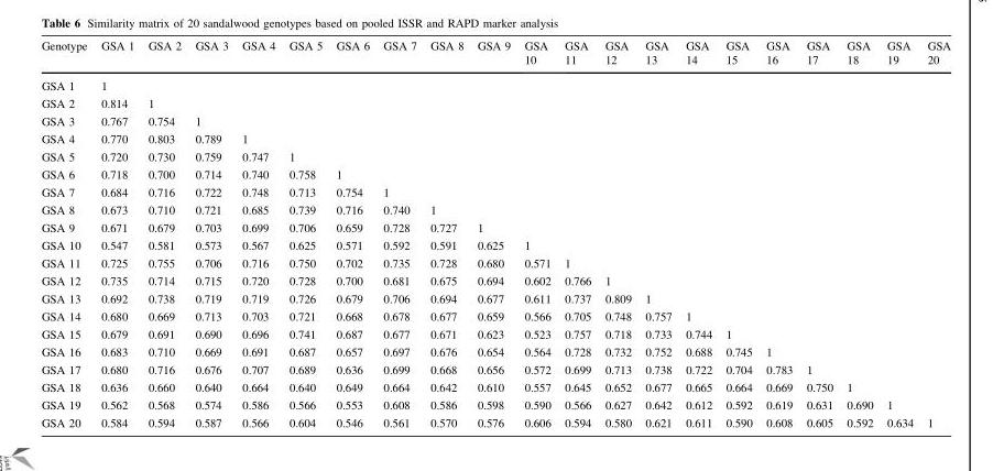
<table><thead><tr><td>Genotype</td><td>GSA 1</td><td>GSA 2</td><td>GSA 3</td><td>GSA 4</td><td>GSA 5</td><td>GSA 6</td><td>GSA 7</td><td>GSA 8</td><td>GSA 9</td><td>GSA 10</td><td>GSA 11</td><td>GSA 12</td><td>GSA 13</td><td>GSA 14</td><td>GSA 15</td><td>GSA 16</td><td>GSA 17</td><td>GSA 18</td><td>GSA 19</td><td>GSA 20</td></tr></thead><tbody><tr><td>GSA 1</td><td>1</td><td></td><td></td><td></td><td></td><td></td><td></td><td></td><td></td><td></td><td></td><td></td><td></td><td></td><td></td><td></td><td></td><td></td><td></td><td></td></tr><tr><td>GSA 2</td><td>0.814</td><td>1</td><td></td><td></td><td></td><td></td><td></td><td></td><td></td><td></td><td></td><td></td><td></td><td></td><td></td><td></td><td></td><td></td><td></td><td></td></tr><tr><td>GSA 3</td><td>0.767</td><td>0.754</td><td>1</td><td></td><td></td><td></td><td></td><td></td><td></td><td></td><td></td><td></td><td></td><td></td><td></td><td></td><td></td><td></td><td></td><td></td></tr><tr><td>GSA 4</td><td>0.770</td><td>0.803</td><td>0.789</td><td>1</td><td></td><td></td><td></td><td></td><td></td><td></td><td></td><td></td><td></td><td></td><td></td><td></td><td></td><td></td><td></td><td></td></tr><tr><td>GSA 5</td><td>0.720</td><td>0.730</td><td>0.759</td><td>0.747</td><td>1</td><td></td><td></td><td></td><td></td><td></td><td></td><td></td><td></td><td></td><td></td><td></td><td></td><td></td><td></td><td></td></tr><tr><td>GSA 6</td><td>0.718</td><td>0.700</td><td>0.714</td><td>0.740</td><td>0.758</td><td>1</td><td></td><td></td><td></td><td></td><td></td><td></td><td></td><td></td><td></td><td></td><td></td><td></td><td></td><td></td></tr><tr><td>GSA 7</td><td>0.684</td><td>0.716</td><td>0.722</td><td>0.748</td><td>0.713</td><td>0.754</td><td>1</td><td></td><td></td><td></td><td></td><td></td><td></td><td></td><td></td><td></td><td></td><td></td><td></td><td></td></tr><tr><td>GSA 8</td><td>0.673</td><td>0.710</td><td>0.721</td><td>0.685</td><td>0.739</td><td>0.716</td><td>0.740</td><td>1</td><td></td><td></td><td></td><td></td><td></td><td></td><td></td><td></td><td></td><td></td><td></td><td></td></tr><tr><td>GSA 9</td><td>0.671</td><td>0.679</td><td>0.703</td><td>0.699</td><td>0.706</td><td>0.659</td><td>0.728</td><td>0.727</td><td>1</td><td></td><td></td><td></td><td></td><td></td><td></td><td></td><td></td><td></td><td></td><td></td></tr><tr><td>GSA 10</td><td>0.547</td><td>0.581</td><td>0.573</td><td>0.567</td><td>0.625</td><td>0.571</td><td>0.592</td><td>0.591</td><td>0.625</td><td>1</td><td></td><td></td><td></td><td></td><td></td><td></td><td></td><td></td><td></td><td></td></tr><tr><td>GSA 11</td><td>0.725</td><td>0.755</td><td>0.706</td><td>0.716</td><td>0.750</td><td>0.702</td><td>0.735</td><td>0.728</td><td>0.680</td><td>0.571</td><td>1</td><td></td><td></td><td></td><td></td><td></td><td></td><td></td><td></td><td></td></tr><tr><td>GSA 12</td><td>0.735</td><td>0.714</td><td>0.715</td><td>0.720</td><td>0.728</td><td>0.700</td><td>0.681</td><td>0.675</td><td>0.694</td><td>0.602</td><td>0.766</td><td>1</td><td></td><td></td><td></td><td></td><td></td><td></td><td></td><td></td></tr><tr><td>GSA 13</td><td>0.692</td><td>0.738</td><td>0.719</td><td>0.719</td><td>0.726</td><td>0.679</td><td>0.706</td><td>0.694</td><td>0.677</td><td>0.611</td><td>0.737</td><td>0.809</td><td>1</td><td></td><td></td><td></td><td></td><td></td><td></td><td></td></tr><tr><td>GSA 14</td><td>0.680</td><td>0.669</td><td>0.713</td><td>0.703</td><td>0.721</td><td>0.668</td><td>0.678</td><td>0.677</td><td>0.659</td><td>0.566</td><td>0.705</td><td>0.748</td><td>0.757</td><td>1</td><td></td><td></td><td></td><td></td><td></td><td></td></tr><tr><td>GSA 15</td><td>0.679</td><td>0.691</td><td>0.690</td><td>0.696</td><td>0.741</td><td>0.687</td><td>0.677</td><td>0.671</td><td>0.623</td><td>0.523</td><td>0.757</td><td>0.718</td><td>0.733</td><td>0.744</td><td>1</td><td></td><td></td><td></td><td></td><td></td></tr><tr><td>GSA 16</td><td>0.683</td><td>0.710</td><td>0.669</td><td>0.691</td><td>0.687</td><td>0.657</td><td>0.697</td><td>0.676</td><td>0.654</td><td>0.564</td><td>0.728</td><td>0.732</td><td>0.752</td><td>0.688</td><td>0.745</td><td>1</td><td></td><td></td><td></td><td></td></tr><tr><td>GSA 17</td><td>0.680</td><td>0.716</td><td>0.676</td><td>0.707</td><td>0.689</td><td>0.636</td><td>0.699</td><td>0.668</td><td>0.656</td><td>0.572</td><td>0.699</td><td>0.713</td><td>0.738</td><td>0.722</td><td>0.704</td><td>0.783</td><td>1</td><td></td><td></td><td></td></tr><tr><td>GSA 18</td><td>0.636</td><td>0.660</td><td>0.640</td><td>0.664</td><td>0.640</td><td>0.649</td><td>0.664</td><td>0.642</td><td>0.610</td><td>0.557</td><td>0.645</td><td>0.652</td><td>0.677</td><td>0.665</td><td>0.664</td><td>0.669</td><td>0.750</td><td>1</td><td></td><td></td></tr><tr><td>GSA 19</td><td>0.562</td><td>0.568</td><td>0.574</td><td>0.586</td><td>0.566</td><td>0.553</td><td>0.608</td><td>0.586</td><td>0.598</td><td>0.590</td><td>0.566</td><td>0.627</td><td>0.642</td><td>0.612</td><td>0.592</td><td>0.619</td><td>0.631</td><td>0.690</td><td>1</td><td></td></tr><tr><td>GSA 20</td><td>0.584</td><td>0.594</td><td>0.587</td><td>0.566</td><td>0.604</td><td>0.546</td><td>0.561</td><td>0.570</td><td>0.576</td><td>0.606</td><td>0.594</td><td>0.580</td><td>0.621</td><td>0.611</td><td>0.590</td><td>0.608</td><td>0.605</td><td>0.592</td><td>0.634</td><td>1</td></tr></tbody></table>